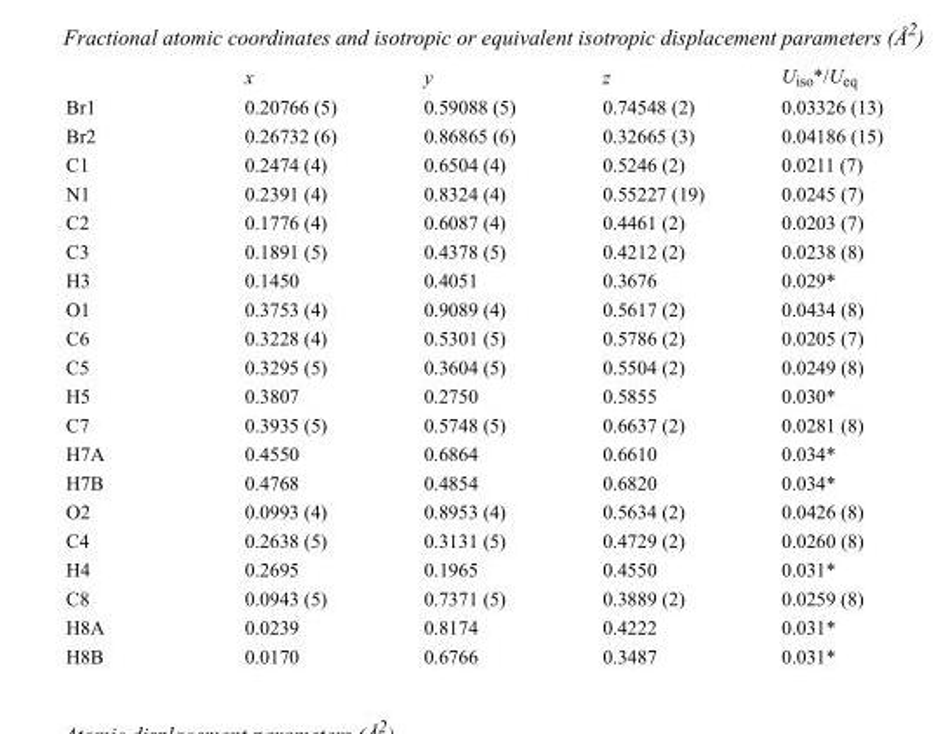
<table><thead><tr><td></td><td>x</td><td>y</td><td>z</td><td>U<sub>iso</sub>*/U<sub>eq</sub></td></tr></thead><tbody><tr><td>Br1</td><td>0.20766 (5)</td><td>0.59088 (5)</td><td>0.74548 (2)</td><td>0.03326 (13)</td></tr><tr><td>Br2</td><td>0.26732 (6)</td><td>0.86865 (6)</td><td>0.32665 (3)</td><td>0.04186 (15)</td></tr><tr><td>C1</td><td>0.2474 (4)</td><td>0.6504 (4)</td><td>0.5246 (2)</td><td>0.0211 (7)</td></tr><tr><td>N1</td><td>0.2391 (4)</td><td>0.8324 (4)</td><td>0.55227 (19)</td><td>0.0245 (7)</td></tr><tr><td>C2</td><td>0.1776 (4)</td><td>0.6087 (4)</td><td>0.4461 (2)</td><td>0.0203 (7)</td></tr><tr><td>C3</td><td>0.1891 (5)</td><td>0.4378 (5)</td><td>0.4212 (2)</td><td>0.0238 (8)</td></tr><tr><td>H3</td><td>0.1450</td><td>0.4051</td><td>0.3676</td><td>0.029*</td></tr><tr><td>O1</td><td>0.3753 (4)</td><td>0.9089 (4)</td><td>0.5617 (2)</td><td>0.0434 (8)</td></tr><tr><td>C6</td><td>0.3228 (4)</td><td>0.5301 (5)</td><td>0.5786 (2)</td><td>0.0205 (7)</td></tr><tr><td>C5</td><td>0.3295 (5)</td><td>0.3604 (5)</td><td>0.5504 (2)</td><td>0.0249 (8)</td></tr><tr><td>H5</td><td>0.3807</td><td>0.2750</td><td>0.5855</td><td>0.030*</td></tr><tr><td>C7</td><td>0.3935 (5)</td><td>0.5748 (5)</td><td>0.6637 (2)</td><td>0.0281 (8)</td></tr><tr><td>H7A</td><td>0.4550</td><td>0.6864</td><td>0.6610</td><td>0.034*</td></tr><tr><td>H7B</td><td>0.4768</td><td>0.4854</td><td>0.6820</td><td>0.034*</td></tr><tr><td>O2</td><td>0.0993 (4)</td><td>0.8953 (4)</td><td>0.5634 (2)</td><td>0.0426 (8)</td></tr><tr><td>C4</td><td>0.2638 (5)</td><td>0.3131 (5)</td><td>0.4729 (2)</td><td>0.0260 (8)</td></tr><tr><td>H4</td><td>0.2695</td><td>0.1965</td><td>0.4550</td><td>0.031*</td></tr><tr><td>C8</td><td>0.0943 (5)</td><td>0.7371 (5)</td><td>0.3889 (2)</td><td>0.0259 (8)</td></tr><tr><td>H8A</td><td>0.0239</td><td>0.8174</td><td>0.4222</td><td>0.031*</td></tr><tr><td>H8B</td><td>0.0170</td><td>0.6766</td><td>0.3487</td><td>0.031*</td></tr></tbody></table>